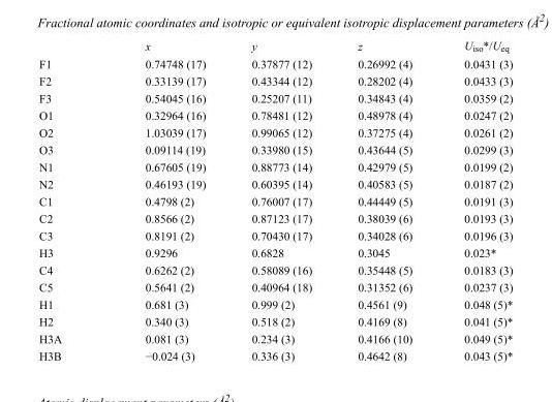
<table><thead><tr><td></td><td>x</td><td>y</td><td>z</td><td>U<sub>iso</sub>*/U<sub>eq</sub></td></tr></thead><tbody><tr><td>F1</td><td>0.74748 (17)</td><td>0.37877 (12)</td><td>0.26992 (4)</td><td>0.0431 (3)</td></tr><tr><td>F2</td><td>0.33139 (17)</td><td>0.43344 (12)</td><td>0.28202 (4)</td><td>0.0433 (3)</td></tr><tr><td>F3</td><td>0.54045 (16)</td><td>0.25207 (11)</td><td>0.34843 (4)</td><td>0.0359 (2)</td></tr><tr><td>O1</td><td>0.32964 (16)</td><td>0.78481 (12)</td><td>0.48978 (4)</td><td>0.0247 (2)</td></tr><tr><td>O2</td><td>1.03039 (17)</td><td>0.99065 (12)</td><td>0.37275 (4)</td><td>0.0261 (2)</td></tr><tr><td>O3</td><td>0.09114 (19)</td><td>0.33980 (15)</td><td>0.43644 (5)</td><td>0.0299 (3)</td></tr><tr><td>N1</td><td>0.67605 (19)</td><td>0.88773 (14)</td><td>0.42979 (5)</td><td>0.0199 (2)</td></tr><tr><td>N2</td><td>0.46193 (19)</td><td>0.60395 (14)</td><td>0.40583 (5)</td><td>0.0187 (2)</td></tr><tr><td>C1</td><td>0.4798 (2)</td><td>0.76007 (17)</td><td>0.44449 (5)</td><td>0.0191 (3)</td></tr><tr><td>C2</td><td>0.8566 (2)</td><td>0.87123 (17)</td><td>0.38039 (6)</td><td>0.0193 (3)</td></tr><tr><td>C3</td><td>0.8191 (2)</td><td>0.70430 (17)</td><td>0.34028 (6)</td><td>0.0196 (3)</td></tr><tr><td>H3</td><td>0.9296</td><td>0.6828</td><td>0.3045</td><td>0.023*</td></tr><tr><td>C4</td><td>0.6262 (2)</td><td>0.58089 (16)</td><td>0.35448 (5)</td><td>0.0183 (3)</td></tr><tr><td>C5</td><td>0.5641 (2)</td><td>0.40964 (18)</td><td>0.31352 (6)</td><td>0.0237 (3)</td></tr><tr><td>H1</td><td>0.681 (3)</td><td>0.999 (2)</td><td>0.4561 (9)</td><td>0.048 (5)*</td></tr><tr><td>H2</td><td>0.340 (3)</td><td>0.518 (2)</td><td>0.4169 (8)</td><td>0.041 (5)*</td></tr><tr><td>H3A</td><td>0.081 (3)</td><td>0.234 (3)</td><td>0.4166 (10)</td><td>0.049 (5)*</td></tr><tr><td>H3B</td><td>−0.024 (3)</td><td>0.336 (3)</td><td>0.4642 (8)</td><td>0.043 (5)*</td></tr></tbody></table>